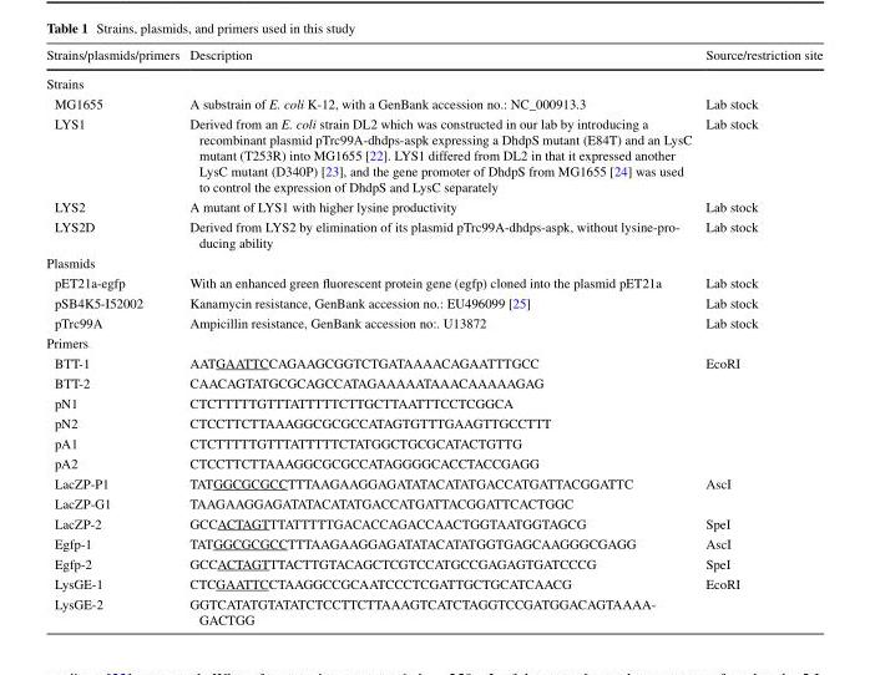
<table><thead><tr><td>Strains/plasmids/primers</td><td>Description</td><td>Source/restriction site</td></tr></thead><tbody><tr><td colspan="3">Strains</td></tr><tr><td>MG1655</td><td>A substrain of E. coli K-12, with a GenBank accession no.: NC_000913.3</td><td>Lab stock</td></tr><tr><td>LYS1</td><td>Derived from an E. coli strain DL2 which was constructed in our lab by introducing a recombinant plasmid pTrc99A-dhdps-aspk expressing a DhdpS mutant (E84T) and an LysC mutant (T253R) into MG1655 [22]. LYS1 differed from DL2 in that it expressed another LysC mutant (D340P) [23], and the gene promoter of DhdpS from MG1655 [24] was used to control the expression of DhdpS and LysC separately</td><td>Lab stock</td></tr><tr><td>LYS2</td><td>A mutant of LYS1 with higher lysine productivity</td><td>Lab stock</td></tr><tr><td>LYS2D</td><td>Derived from LYS2 by elimination of its plasmid pTrc99A-dhdps-aspk, without lysine-pro- ducing ability</td><td>Lab stock</td></tr><tr><td colspan="3">Plasmids</td></tr><tr><td>pET21a-egfp</td><td>With an enhanced green fluorescent protein gene (egfp) cloned into the plasmid pET21a</td><td>Lab stock</td></tr><tr><td>pSB4K5-I52002</td><td>Kanamycin resistance, GenBank accession no.: EU496099 [25]</td><td>Lab stock</td></tr><tr><td>pTrc99A</td><td>Ampicillin resistance, GenBank accession no:. U13872</td><td>Lab stock</td></tr><tr><td colspan="3">Primers</td></tr><tr><td>BTT-1</td><td>AATGAATTCCAGAAGCGGTCTGATAAAACAGAATTTGCC</td><td>EcoRI</td></tr><tr><td>BTT-2</td><td>CAACAGTATGCGCAGCCATAGAAAAATAAACAAAAAGAG</td><td></td></tr><tr><td>pN1</td><td>CTCTTTTTGTTTATTTTTCTTGCTTAATTTCCTCGGCA</td><td></td></tr><tr><td>pN2</td><td>CTCCTTCTTAAAGGCGCGCCATAGTGTTTGAAGTTGCCTTT</td><td></td></tr><tr><td>pA1</td><td>CTCTTTTTGTTTATTTTTCTATGGCTGCGCATACTGTTG</td><td></td></tr><tr><td>pA2</td><td>CTCCTTCTTAAAGGCGCGCCATAGGGGCACCTACCGAGG</td><td></td></tr><tr><td>LacZP-P1</td><td>TATGGCGCGCCTTTAAGAAGGAGATATACATATGACCATGATTACGGATTC</td><td>AscI</td></tr><tr><td>LacZP-G1</td><td>TAAGAAGGAGATATACATATGACCATGATTACGGATTCACTGGC</td><td></td></tr><tr><td>LacZP-2</td><td>GCCACTAGTTTATTTTTGACACCAGACCAACTGGTAATGGTAGCG</td><td>SpeI</td></tr><tr><td>Egfp-1</td><td>TATGGCGCGCCTTTAAGAAGGAGATATACATATGGTGAGCAAGGGCGAGG</td><td>AscI</td></tr><tr><td>Egfp-2</td><td>GCCACTAGTTTACTTGTACAGCTCGTCCATGCCGAGAGTGATCCCG</td><td>SpeI</td></tr><tr><td>LysGE-1</td><td>CTCGAATTCCTAAGGCCGCAATCCCTCGATTGCTGCATCAACG</td><td>EcoRI</td></tr><tr><td>LysGE-2</td><td>GGTCATATGTATATCTCCTTCTTAAAGTCATCTAGGTCCGATGGACAGTAAAA- GACTGG</td><td></td></tr></tbody></table>